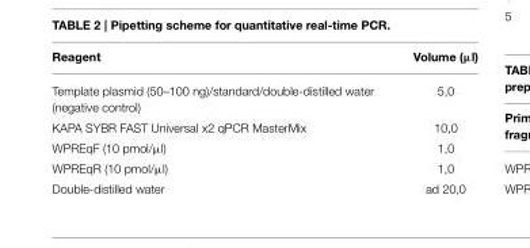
<table><thead><tr><td>Reagent</td><td>Volume (µl)</td></tr></thead><tbody><tr><td>Template plasmid (50–100 ng)/standard/double-distilled water (negative control)</td><td>5,0</td></tr><tr><td>KAPA SYBR FAST Universal x2 qPCR MasterMix</td><td>10,0</td></tr><tr><td>WPREqF (10 pmol/µl)</td><td>1,0</td></tr><tr><td>WPREqR (10 pmol/µl)</td><td>1,0</td></tr><tr><td>Double-distilled water</td><td>ad 20,0</td></tr></tbody></table>